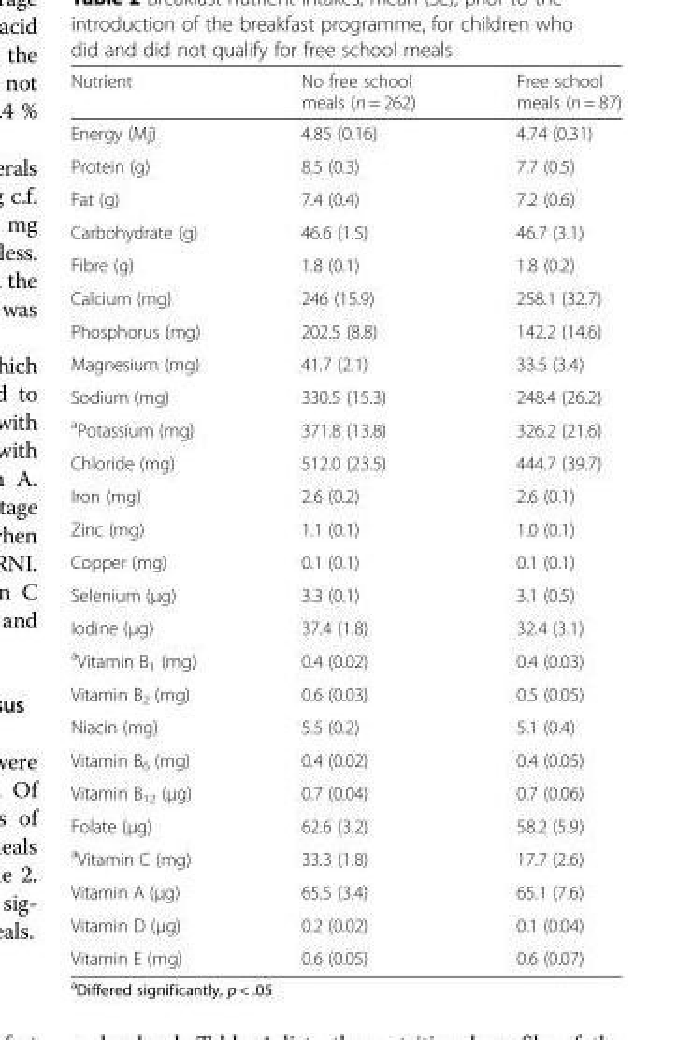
<table><thead><tr><td>Nutrient</td><td>No free school meals (n = 262)</td><td>Free school meals (n = 87)</td></tr></thead><tbody><tr><td>Energy (Mj)</td><td>4.85 (0.16)</td><td>4.74 (0.31)</td></tr><tr><td>Protein (g)</td><td>8.5 (0.3)</td><td>7.7 (0.5)</td></tr><tr><td>Fat (g)</td><td>7.4 (0.4)</td><td>7.2 (0.6)</td></tr><tr><td>Carbohydrate (g)</td><td>46.6 (1.5)</td><td>46.7 (3.1)</td></tr><tr><td>Fibre (g)</td><td>1.8 (0.1)</td><td>1.8 (0.2)</td></tr><tr><td>Calcium (mg)</td><td>246 (15.9)</td><td>258.1 (32.7)</td></tr><tr><td>Phosphorus (mg)</td><td>202.5 (8.8)</td><td>142.2 (14.6)</td></tr><tr><td>Magnesium (mg)</td><td>41.7 (2.1)</td><td>33.5 (3.4)</td></tr><tr><td>Sodium (mg)</td><td>330.5 (15.3)</td><td>248.4 (26.2)</td></tr><tr><td><sup>a</sup>Potassium (mg)</td><td>371.8 (13.8)</td><td>326.2 (21.6)</td></tr><tr><td>Chloride (mg)</td><td>512.0 (23.5)</td><td>444.7 (39.7)</td></tr><tr><td>Iron (mg)</td><td>2.6 (0.2)</td><td>2.6 (0.1)</td></tr><tr><td>Zinc (mg)</td><td>1.1 (0.1)</td><td>1.0 (0.1)</td></tr><tr><td>Copper (mg)</td><td>0.1 (0.1)</td><td>0.1 (0.1)</td></tr><tr><td>Selenium (μg)</td><td>3.3 (0.1)</td><td>3.1 (0.5)</td></tr><tr><td>Iodine (μg)</td><td>37.4 (1.8)</td><td>32.4 (3.1)</td></tr><tr><td><sup>a</sup>Vitamin B<sub>1</sub> (mg)</td><td>0.4 (0.02)</td><td>0.4 (0.03)</td></tr><tr><td>Vitamin B<sub>2</sub> (mg)</td><td>0.6 (0.03)</td><td>0.5 (0.05)</td></tr><tr><td>Niacin (mg)</td><td>5.5 (0.2)</td><td>5.1 (0.4)</td></tr><tr><td>Vitamin B<sub>6</sub> (mg)</td><td>0.4 (0.02)</td><td>0.4 (0.05)</td></tr><tr><td>Vitamin B<sub>12</sub> (μg)</td><td>0.7 (0.04)</td><td>0.7 (0.06)</td></tr><tr><td>Folate (μg)</td><td>62.6 (3.2)</td><td>58.2 (5.9)</td></tr><tr><td><sup>a</sup>Vitamin C (mg)</td><td>33.3 (1.8)</td><td>17.7 (2.6)</td></tr><tr><td>Vitamin A (μg)</td><td>65.5 (3.4)</td><td>65.1 (7.6)</td></tr><tr><td>Vitamin D (μg)</td><td>0.2 (0.02)</td><td>0.1 (0.04)</td></tr><tr><td>Vitamin E (mg)</td><td>0.6 (0.05)</td><td>0.6 (0.07)</td></tr></tbody></table>